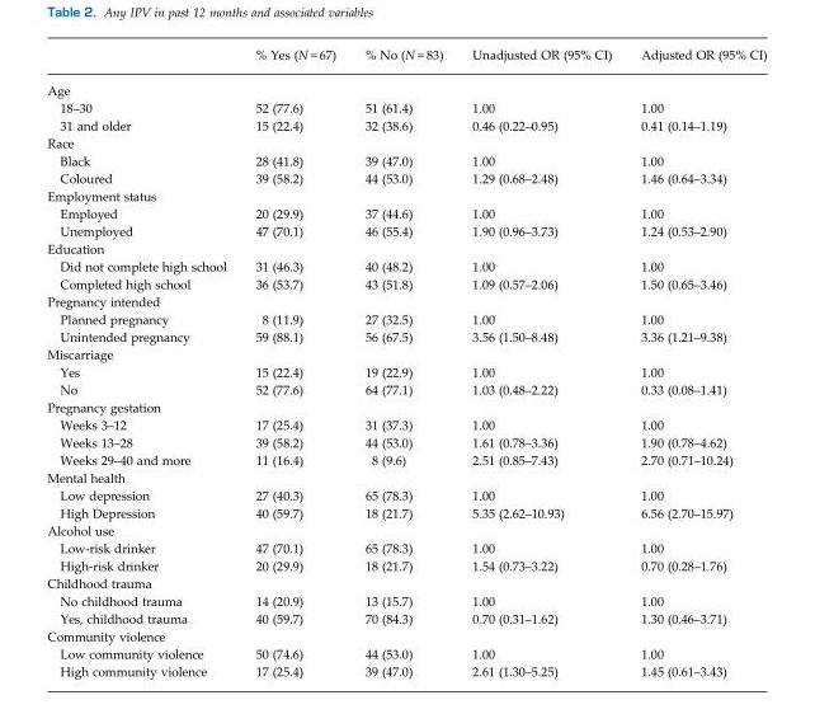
<table><thead><tr><td></td><td>% Yes (N = 67)</td><td>% No (N = 83)</td><td>Unadjusted OR (95% CI)</td><td>Adjusted OR (95% CI)</td></tr></thead><tbody><tr><td colspan="5">Age</td></tr><tr><td>18–30</td><td>52 (77.6)</td><td>51 (61.4)</td><td>1.00</td><td>1.00</td></tr><tr><td>31 and older</td><td>15 (22.4)</td><td>32 (38.6)</td><td>0.46 (0.22–0.95)</td><td>0.41 (0.14–1.19)</td></tr><tr><td colspan="5">Race</td></tr><tr><td>Black</td><td>28 (41.8)</td><td>39 (47.0)</td><td>1.00</td><td>1.00</td></tr><tr><td>Coloured</td><td>39 (58.2)</td><td>44 (53.0)</td><td>1.29 (0.68–2.48)</td><td>1.46 (0.64–3.34)</td></tr><tr><td colspan="5">Employment status</td></tr><tr><td>Employed</td><td>20 (29.9)</td><td>37 (44.6)</td><td>1.00</td><td>1.00</td></tr><tr><td>Unemployed</td><td>47 (70.1)</td><td>46 (55.4)</td><td>1.90 (0.96–3.73)</td><td>1.24 (0.53–2.90)</td></tr><tr><td colspan="5">Education</td></tr><tr><td>Did not complete high school</td><td>31 (46.3)</td><td>40 (48.2)</td><td>1.00</td><td>1.00</td></tr><tr><td>Completed high school</td><td>36 (53.7)</td><td>43 (51.8)</td><td>1.09 (0.57–2.06)</td><td>1.50 (0.65–3.46)</td></tr><tr><td colspan="5">Pregnancy intended</td></tr><tr><td>Planned pregnancy</td><td>8 (11.9)</td><td>27 (32.5)</td><td>1.00</td><td>1.00</td></tr><tr><td>Unintended pregnancy</td><td>59 (88.1)</td><td>56 (67.5)</td><td>3.56 (1.50–8.48)</td><td>3.36 (1.21–9.38)</td></tr><tr><td colspan="5">Miscarriage</td></tr><tr><td>Yes</td><td>15 (22.4)</td><td>19 (22.9)</td><td>1.00</td><td>1.00</td></tr><tr><td>No</td><td>52 (77.6)</td><td>64 (77.1)</td><td>1.03 (0.48–2.22)</td><td>0.33 (0.08–1.41)</td></tr><tr><td colspan="5">Pregnancy gestation</td></tr><tr><td>Weeks 3–12</td><td>17 (25.4)</td><td>31 (37.3)</td><td>1.00</td><td>1.00</td></tr><tr><td>Weeks 13–28</td><td>39 (58.2)</td><td>44 (53.0)</td><td>1.61 (0.78–3.36)</td><td>1.90 (0.78–4.62)</td></tr><tr><td>Weeks 29–40 and more</td><td>11 (16.4)</td><td>8 (9.6)</td><td>2.51 (0.85–7.43)</td><td>2.70 (0.71–10.24)</td></tr><tr><td colspan="5">Mental health</td></tr><tr><td>Low depression</td><td>27 (40.3)</td><td>65 (78.3)</td><td>1.00</td><td>1.00</td></tr><tr><td>High Depression</td><td>40 (59.7)</td><td>18 (21.7)</td><td>5.35 (2.62–10.93)</td><td>6.56 (2.70–15.97)</td></tr><tr><td colspan="5">Alcohol use</td></tr><tr><td>Low-risk drinker</td><td>47 (70.1)</td><td>65 (78.3)</td><td>1.00</td><td>1.00</td></tr><tr><td>High-risk drinker</td><td>20 (29.9)</td><td>18 (21.7)</td><td>1.54 (0.73–3.22)</td><td>0.70 (0.28–1.76)</td></tr><tr><td colspan="5">Childhood trauma</td></tr><tr><td>No childhood trauma</td><td>14 (20.9)</td><td>13 (15.7)</td><td>1.00</td><td>1.00</td></tr><tr><td>Yes, childhood trauma</td><td>40 (59.7)</td><td>70 (84.3)</td><td>0.70 (0.31–1.62)</td><td>1.30 (0.46–3.71)</td></tr><tr><td colspan="5">Community violence</td></tr><tr><td>Low community violence</td><td>50 (74.6)</td><td>44 (53.0)</td><td>1.00</td><td>1.00</td></tr><tr><td>High community violence</td><td>17 (25.4)</td><td>39 (47.0)</td><td>2.61 (1.30–5.25)</td><td>1.45 (0.61–3.43)</td></tr></tbody></table>